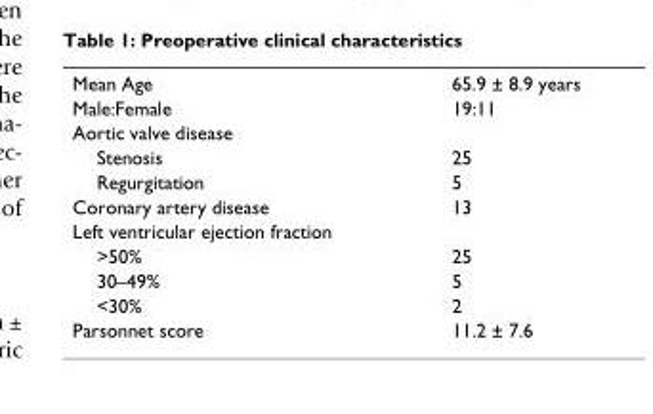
<table><tbody><tr><td>Mean Age</td><td>65.9 ± 8.9 years</td></tr><tr><td>Male:Female</td><td>19:11</td></tr><tr><td colspan="2">Aortic valve disease</td></tr><tr><td>Stenosis</td><td>25</td></tr><tr><td>Regurgitation</td><td>5</td></tr><tr><td>Coronary artery disease</td><td>13</td></tr><tr><td colspan="2">Left ventricular ejection fraction</td></tr><tr><td>&gt;50%</td><td>25</td></tr><tr><td>30–49%</td><td>5</td></tr><tr><td>&lt;30%</td><td>2</td></tr><tr><td>Parsonnet score</td><td>11.2 ± 7.6</td></tr></tbody></table>